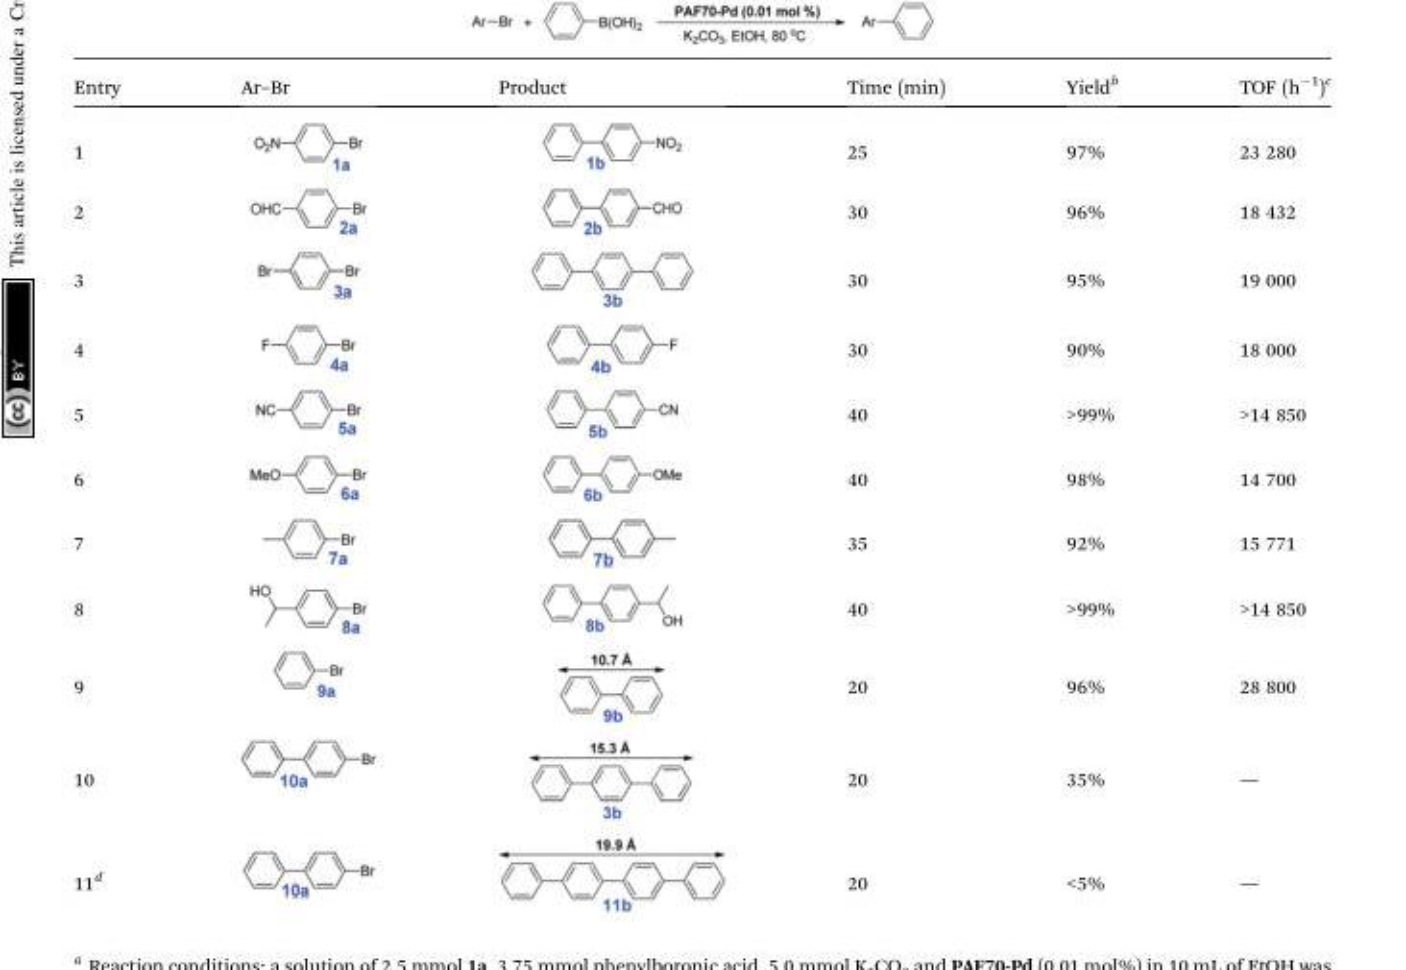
<table><thead><tr><td>Entry</td><td>Ar–Br</td><td>Product</td><td>Time (min)</td><td>Yield<sup>b</sup></td><td>TOF (h<sup>–1</sup>)<sup>c</sup></td></tr></thead><tbody><tr><td>1</td><td></td><td></td><td>25</td><td>97%</td><td>23 280</td></tr><tr><td>2</td><td></td><td></td><td>30</td><td>96%</td><td>18 432</td></tr><tr><td>3</td><td></td><td></td><td>30</td><td>95%</td><td>19 000</td></tr><tr><td>4</td><td></td><td></td><td>30</td><td>90%</td><td>18 000</td></tr><tr><td>5</td><td></td><td></td><td>40</td><td>&gt;99%</td><td>&gt;14 850</td></tr><tr><td>6</td><td></td><td></td><td>40</td><td>98%</td><td>14 700</td></tr><tr><td>7</td><td></td><td></td><td>35</td><td>92%</td><td>15 771</td></tr><tr><td>8</td><td></td><td></td><td>40</td><td>&gt;99%</td><td>&gt;14 850</td></tr><tr><td>9</td><td></td><td></td><td>20</td><td>96%</td><td>28 800</td></tr><tr><td>10</td><td></td><td></td><td>20</td><td>35%</td><td>—</td></tr><tr><td>11<sup>d</sup></td><td></td><td></td><td>20</td><td>&lt;5%</td><td>—</td></tr></tbody></table>